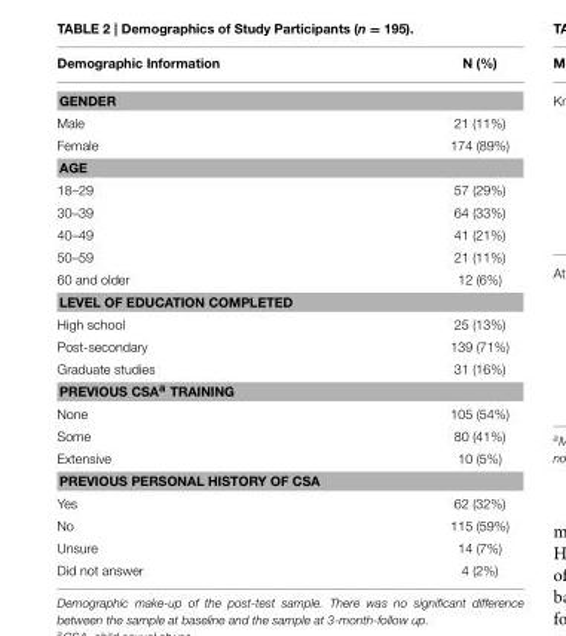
<table><thead><tr><td>Demographic Information</td><td>N (%)</td></tr></thead><tbody><tr><td colspan="2">GENDER</td></tr><tr><td>Male</td><td>21 (11%)</td></tr><tr><td>Female</td><td>174 (89%)</td></tr><tr><td colspan="2">AGE</td></tr><tr><td>18–29</td><td>57 (29%)</td></tr><tr><td>30–39</td><td>64 (33%)</td></tr><tr><td>40–49</td><td>41 (21%)</td></tr><tr><td>50–59</td><td>21 (11%)</td></tr><tr><td>60 and older</td><td>12 (6%)</td></tr><tr><td colspan="2">LEVEL OF EDUCATION COMPLETED</td></tr><tr><td>High school</td><td>25 (13%)</td></tr><tr><td>Post-secondary</td><td>139 (71%)</td></tr><tr><td>Graduate studies</td><td>31 (16%)</td></tr><tr><td colspan="2">PREVIOUS CSA<sup>a</sup> TRAINING</td></tr><tr><td>None</td><td>105 (54%)</td></tr><tr><td>Some</td><td>80 (41%)</td></tr><tr><td>Extensive</td><td>10 (5%)</td></tr><tr><td colspan="2">PREVIOUS PERSONAL HISTORY OF CSA</td></tr><tr><td>Yes</td><td>62 (32%)</td></tr><tr><td>No</td><td>115 (59%)</td></tr><tr><td>Unsure</td><td>14 (7%)</td></tr><tr><td>Did not answer</td><td>4 (2%)</td></tr></tbody></table>